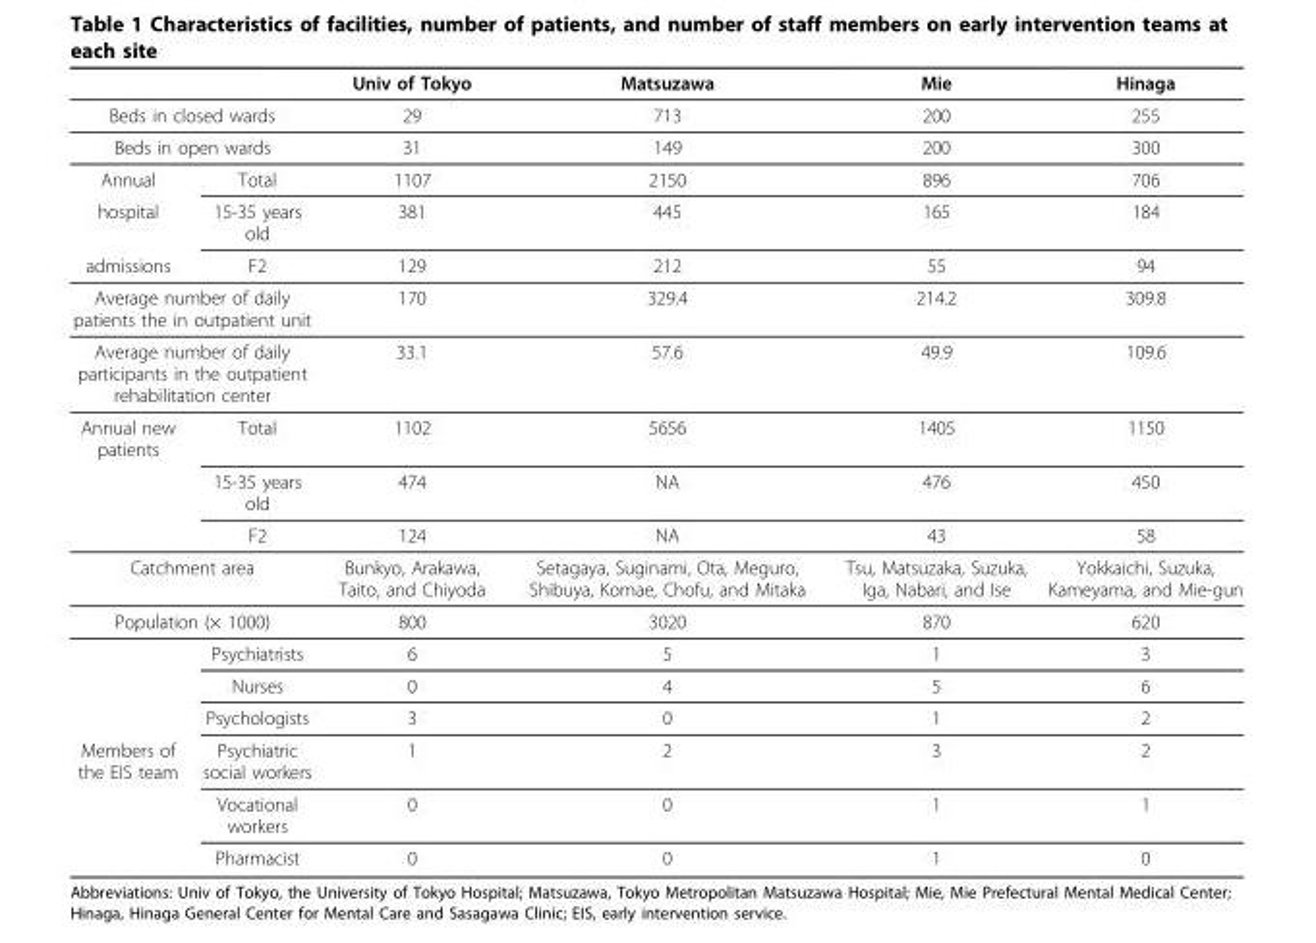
<table><thead><tr><td></td><td></td><td>Univ of Tokyo</td><td>Matsuzawa</td><td>Mie</td><td>Hinaga</td></tr></thead><tbody><tr><td colspan="2">Beds in closed wards</td><td>29</td><td>713</td><td>200</td><td>255</td></tr><tr><td colspan="2">Beds in open wards</td><td>31</td><td>149</td><td>200</td><td>300</td></tr><tr><td>Annual</td><td>Total</td><td>1107</td><td>2150</td><td>896</td><td>706</td></tr><tr><td>hospital</td><td>15-35 years old</td><td>381</td><td>445</td><td>165</td><td>184</td></tr><tr><td>admissions</td><td>F2</td><td>129</td><td>212</td><td>55</td><td>94</td></tr><tr><td colspan="2">Average number of daily patients the in outpatient unit</td><td>170</td><td>329.4</td><td>214.2</td><td>309.8</td></tr><tr><td colspan="2">Average number of daily participants in the outpatient rehabilitation center</td><td>33.1</td><td>57.6</td><td>49.9</td><td>109.6</td></tr><tr><td rowspan="3">Annual new patients</td><td>Total</td><td>1102</td><td>5656</td><td>1405</td><td>1150</td></tr><tr><td>15-35 years old</td><td>474</td><td>NA</td><td>476</td><td>450</td></tr><tr><td>F2</td><td>124</td><td>NA</td><td>43</td><td>58</td></tr><tr><td colspan="2">Catchment area</td><td>Bunkyo, Arakawa, Taito, and Chiyoda</td><td>Setagaya, Suginami, Ota, Meguro, Shibuya, Komae, Chofu, and Mitaka</td><td>Tsu, Matsuzaka, Suzuka, Iga, Nabari, and Ise</td><td>Yokkaichi, Suzuka, Kameyama, and Mie-gun</td></tr><tr><td colspan="2">Population (× 1000)</td><td>800</td><td>3020</td><td>870</td><td>620</td></tr><tr><td></td><td>Psychiatrists</td><td>6</td><td>5</td><td>1</td><td>3</td></tr><tr><td></td><td>Nurses</td><td>0</td><td>4</td><td>5</td><td>6</td></tr><tr><td></td><td>Psychologists</td><td>3</td><td>0</td><td>1</td><td>2</td></tr><tr><td rowspan="3">Members of the EIS team</td><td>Psychiatric social workers</td><td>1</td><td>2</td><td>3</td><td>2</td></tr><tr><td>Vocational workers</td><td>0</td><td>0</td><td>1</td><td>1</td></tr><tr><td>Pharmacist</td><td>0</td><td>0</td><td>1</td><td>0</td></tr></tbody></table>